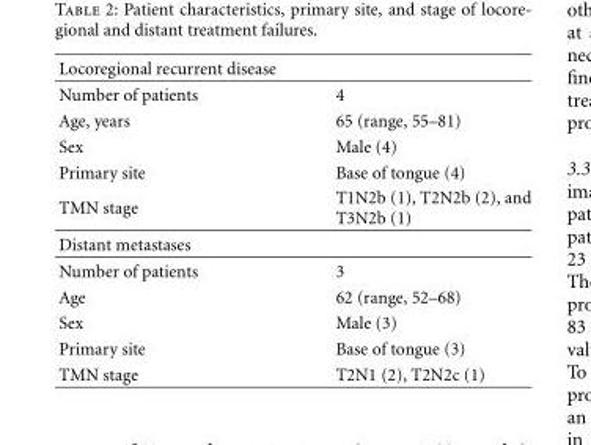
<table><thead><tr><td>Locoregional recurrent disease</td><td></td></tr></thead><tbody><tr><td>Number of patients</td><td>4</td></tr><tr><td>Age, years</td><td>65 (range, 55–81)</td></tr><tr><td>Sex</td><td>Male (4)</td></tr><tr><td>Primary site</td><td>Base of tongue (4)</td></tr><tr><td>TMN stage</td><td>T1N2b (1), T2N2b (2), and T3N2b (1)</td></tr><tr><td colspan="2">Distant metastases</td></tr><tr><td>Number of patients</td><td>3</td></tr><tr><td>Age</td><td>62 (range, 52–68)</td></tr><tr><td>Sex</td><td>Male (3)</td></tr><tr><td>Primary site</td><td>Base of tongue (3)</td></tr><tr><td>TMN stage</td><td>T2N1 (2), T2N2c (1)</td></tr></tbody></table>